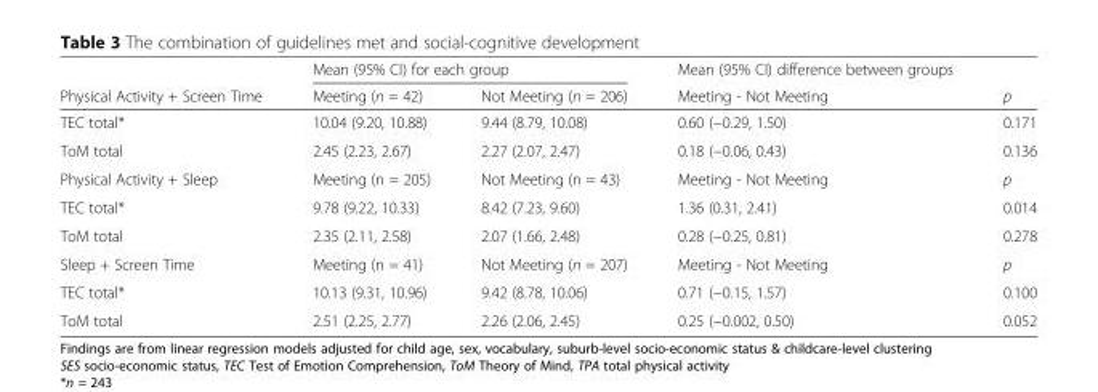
<table><thead><tr><td rowspan="2">Physical Activity + Screen Time</td><td colspan="2">Mean (95% CI) for each group</td><td rowspan="2">Mean (95% CI) difference between groups Meeting - Not Meeting</td><td rowspan="2">p</td></tr><tr><td>Meeting (n = 42)</td><td>Not Meeting (n = 206)</td></tr></thead><tbody><tr><td>TEC total*</td><td>10.04 (9.20, 10.88)</td><td>9.44 (8.79, 10.08)</td><td>0.60 (−0.29, 1.50)</td><td>0.171</td></tr><tr><td>ToM total</td><td>2.45 (2.23, 2.67)</td><td>2.27 (2.07, 2.47)</td><td>0.18 (−0.06, 0.43)</td><td>0.136</td></tr><tr><td>Physical Activity + Sleep</td><td>Meeting (n = 205)</td><td>Not Meeting (n = 43)</td><td>Meeting - Not Meeting</td><td>p</td></tr><tr><td>TEC total*</td><td>9.78 (9.22, 10.33)</td><td>8.42 (7.23, 9.60)</td><td>1.36 (0.31, 2.41)</td><td>0.014</td></tr><tr><td>ToM total</td><td>2.35 (2.11, 2.58)</td><td>2.07 (1.66, 2.48)</td><td>0.28 (−0.25, 0.81)</td><td>0.278</td></tr><tr><td>Sleep + Screen Time</td><td>Meeting (n = 41)</td><td>Not Meeting (n = 207)</td><td>Meeting - Not Meeting</td><td>p</td></tr><tr><td>TEC total*</td><td>10.13 (9.31, 10.96)</td><td>9.42 (8.78, 10.06)</td><td>0.71 (−0.15, 1.57)</td><td>0.100</td></tr><tr><td>ToM total</td><td>2.51 (2.25, 2.77)</td><td>2.26 (2.06, 2.45)</td><td>0.25 (−0.002, 0.50)</td><td>0.052</td></tr></tbody></table>